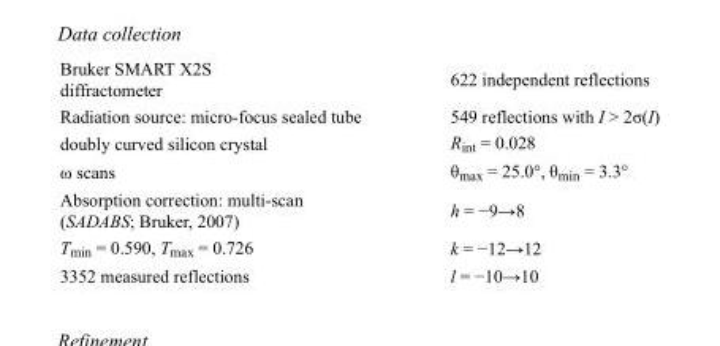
<table><tbody><tr><td>Bruker SMART X2S diffractometer</td><td>622 independent reflections</td></tr><tr><td>Radiation source: micro-focus sealed tube</td><td>549 reflections with I &gt; 2σ(I)</td></tr><tr><td>doubly curved silicon crystal</td><td>R<sub>int</sub> = 0.028</td></tr><tr><td>ω scans</td><td>θ<sub>max</sub> = 25.0°, θ<sub>min</sub> = 3.3°</td></tr><tr><td>Absorption correction: multi-scan (SADABS; Bruker, 2007)</td><td>h = −9→8</td></tr><tr><td>T<sub>min</sub> = 0.590, T<sub>max</sub> = 0.726</td><td>k = −12→12</td></tr><tr><td>3352 measured reflections</td><td>l = −10→10</td></tr></tbody></table>